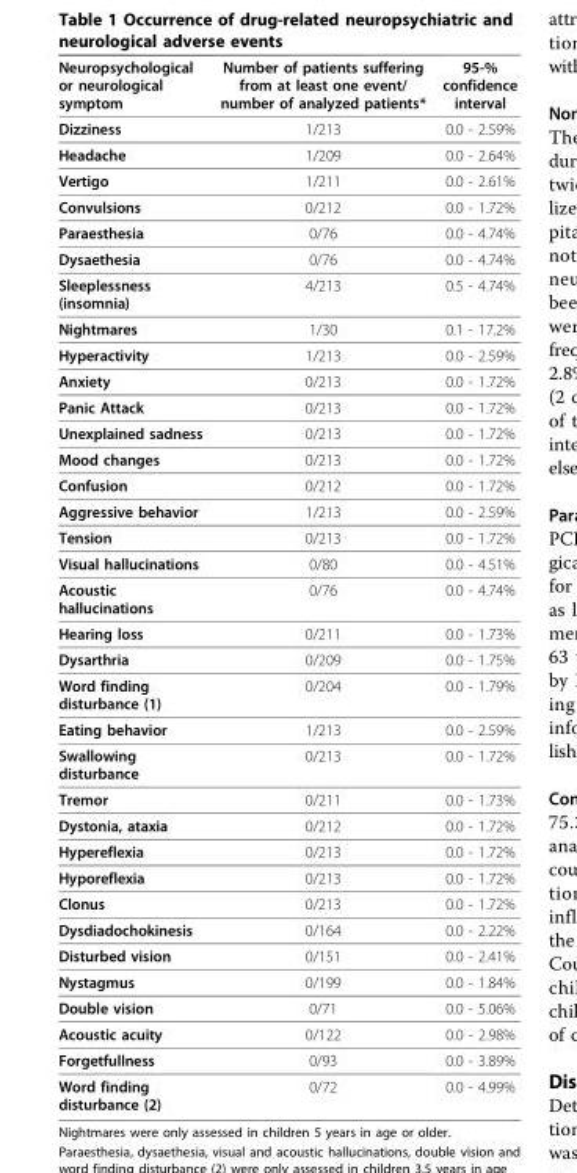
<table><thead><tr><td>Neuropsychological or neurological symptom</td><td>Number of patients suffering from at least one event/ number of analyzed patients*</td><td>95-% confidence interval</td></tr></thead><tbody><tr><td>Dizziness</td><td>1/213</td><td>0.0 - 2.59%</td></tr><tr><td>Headache</td><td>1/209</td><td>0.0 - 2.64%</td></tr><tr><td>Vertigo</td><td>1/211</td><td>0.0 - 2.61%</td></tr><tr><td>Convulsions</td><td>0/212</td><td>0.0 - 1.72%</td></tr><tr><td>Paraesthesia</td><td>0/76</td><td>0.0 - 4.74%</td></tr><tr><td>Dysaethesia</td><td>0/76</td><td>0.0 - 4.74%</td></tr><tr><td>Sleeplessness (insomnia)</td><td>4/213</td><td>0.5 - 4.74%</td></tr><tr><td>Nightmares</td><td>1/30</td><td>0.1 - 17.2%</td></tr><tr><td>Hyperactivity</td><td>1/213</td><td>0.0 - 2.59%</td></tr><tr><td>Anxiety</td><td>0/213</td><td>0.0 - 1.72%</td></tr><tr><td>Panic Attack</td><td>0/213</td><td>0.0 - 1.72%</td></tr><tr><td>Unexplained sadness</td><td>0/213</td><td>0.0 - 1.72%</td></tr><tr><td>Mood changes</td><td>0/213</td><td>0.0 - 1.72%</td></tr><tr><td>Confusion</td><td>0/212</td><td>0.0 - 1.72%</td></tr><tr><td>Aggressive behavior</td><td>1/213</td><td>0.0 - 2.59%</td></tr><tr><td>Tension</td><td>0/213</td><td>0.0 - 1.72%</td></tr><tr><td>Visual hallucinations</td><td>0/80</td><td>0.0 - 4.51%</td></tr><tr><td>Acoustic hallucinations</td><td>0/76</td><td>0.0 - 4.74%</td></tr><tr><td>Hearing loss</td><td>0/211</td><td>0.0 - 1.73%</td></tr><tr><td>Dysarthria</td><td>0/209</td><td>0.0 - 1.75%</td></tr><tr><td>Word finding disturbance (1)</td><td>0/204</td><td>0.0 - 1.79%</td></tr><tr><td>Eating behavior</td><td>1/213</td><td>0.0 - 2.59%</td></tr><tr><td>Swallowing disturbance</td><td>0/213</td><td>0.0 - 1.72%</td></tr><tr><td>Tremor</td><td>0/211</td><td>0.0 - 1.73%</td></tr><tr><td>Dystonia, ataxia</td><td>0/212</td><td>0.0 - 1.72%</td></tr><tr><td>Hypereflexia</td><td>0/213</td><td>0.0 - 1.72%</td></tr><tr><td>Hyporeflexia</td><td>0/213</td><td>0.0 - 1.72%</td></tr><tr><td>Clonus</td><td>0/213</td><td>0.0 - 1.72%</td></tr><tr><td>Dysdiadochokinesis</td><td>0/164</td><td>0.0 - 2.22%</td></tr><tr><td>Disturbed vision</td><td>0/151</td><td>0.0 - 2.41%</td></tr><tr><td>Nystagmus</td><td>0/199</td><td>0.0 - 1.84%</td></tr><tr><td>Double vision</td><td>0/71</td><td>0.0 - 5.06%</td></tr><tr><td>Acoustic acuity</td><td>0/122</td><td>0.0 - 2.98%</td></tr><tr><td>Forgetfullness</td><td>0/93</td><td>0.0 - 3.89%</td></tr><tr><td>Word finding disturbance (2)</td><td>0/72</td><td>0.0 - 4.99%</td></tr></tbody></table>